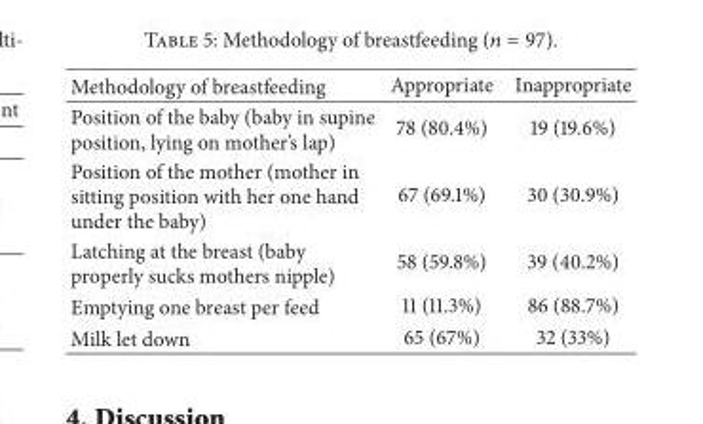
<table><thead><tr><td>Methodology of breastfeeding</td><td>Appropriate</td><td>Inappropriate</td></tr></thead><tbody><tr><td>Position of the baby (baby in supine position, lying on mother’s lap)</td><td>78 (80.4%)</td><td>19 (19.6%)</td></tr><tr><td>Position of the mother (mother in sitting position with her one hand under the baby)</td><td>67 (69.1%)</td><td>30 (30.9%)</td></tr><tr><td>Latching at the breast (baby properly sucks mothers nipple)</td><td>58 (59.8%)</td><td>39 (40.2%)</td></tr><tr><td>Emptying one breast per feed</td><td>11 (11.3%)</td><td>86 (88.7%)</td></tr><tr><td>Milk let down</td><td>65 (67%)</td><td>32 (33%)</td></tr></tbody></table>